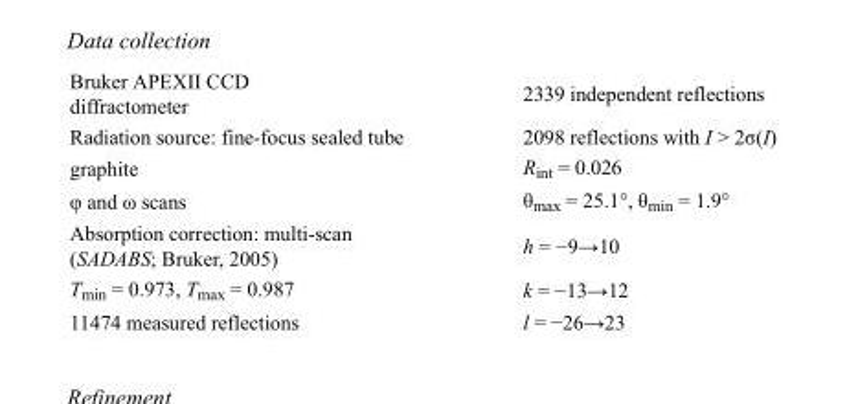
<table><tbody><tr><td>Bruker APEXII CCD diffractometer</td><td>2339 independent reflections</td></tr><tr><td>Radiation source: fine-focus sealed tube</td><td>2098 reflections with I &gt; 2σ(I)</td></tr><tr><td>graphite</td><td>R<sub>int</sub> = 0.026</td></tr><tr><td>φ and ω scans</td><td>θ<sub>max</sub> = 25.1°, θ<sub>min</sub> = 1.9°</td></tr><tr><td>Absorption correction: multi-scan (SADABS; Bruker, 2005)</td><td>h = −9→10</td></tr><tr><td>T<sub>min</sub> = 0.973, T<sub>max</sub> = 0.987</td><td>k = −13→12</td></tr><tr><td>11474 measured reflections</td><td>l = −26→23</td></tr></tbody></table>